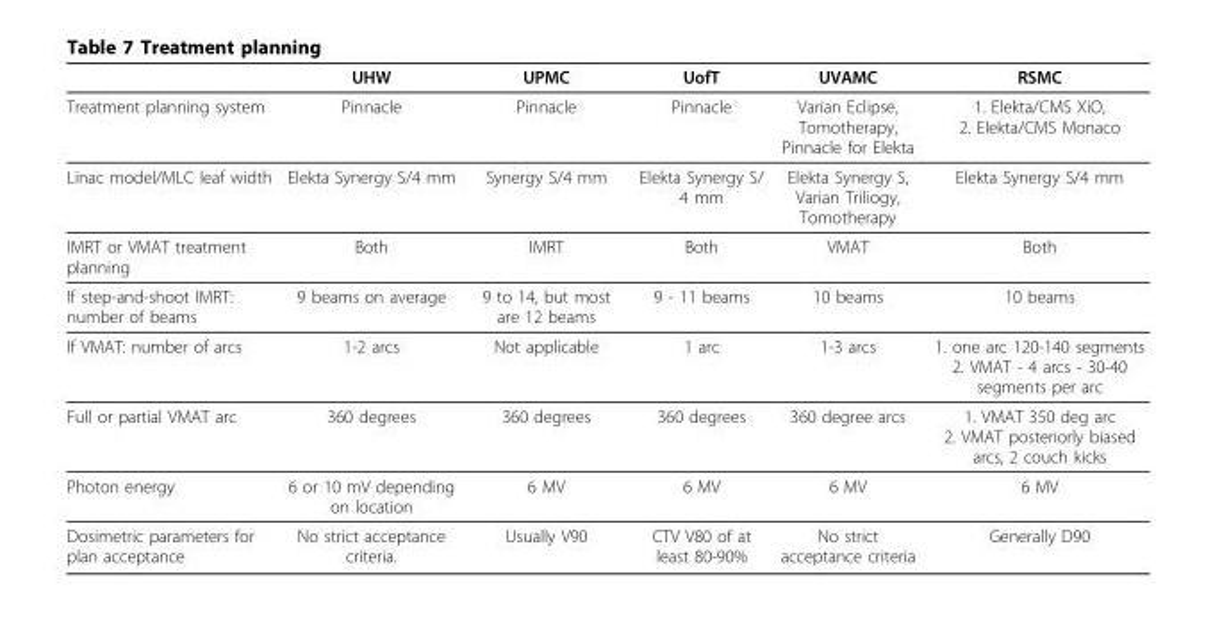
<table><thead><tr><td></td><td>UHW</td><td>UPMC</td><td>UofT</td><td>UVAMC</td><td>RSMC</td></tr></thead><tbody><tr><td>Treatment planning system</td><td>Pinnacle</td><td>Pinnacle</td><td>Pinnacle</td><td>Varian Eclipse, Tomotherapy, Pinnacle for Elekta</td><td>1. Elekta/CMS XiO, 2. Elekta/CMS Monaco</td></tr><tr><td>Linac model/MLC leaf width</td><td>Elekta Synergy S/4 mm</td><td>Synergy S/4 mm</td><td>Elekta Synergy S/ 4 mm</td><td>Elekta Synergy S, Varian Triliogy, Tomotherapy</td><td>Elekta Synergy S/4 mm</td></tr><tr><td>IMRT or VMAT treatment planning</td><td>Both</td><td>IMRT</td><td>Both</td><td>VMAT</td><td>Both</td></tr><tr><td>If step-and-shoot IMRT: number of beams</td><td>9 beams on average</td><td>9 to 14, but most are 12 beams</td><td>9 - 11 beams</td><td>10 beams</td><td>10 beams</td></tr><tr><td>If VMAT: number of arcs</td><td>1-2 arcs</td><td>Not applicable</td><td>1 arc</td><td>1-3 arcs</td><td>1. one arc 120-140 segments 2. VMAT - 4 arcs - 30-40 segments per arc</td></tr><tr><td>Full or partial VMAT arc</td><td>360 degrees</td><td>360 degrees</td><td>360 degrees</td><td>360 degree arcs</td><td>1. VMAT 350 deg arc 2. VMAT posteriorly biased arcs, 2 couch kicks</td></tr><tr><td>Photon energy</td><td>6 or 10 mV depending on location</td><td>6 MV</td><td>6 MV</td><td>6 MV</td><td>6 MV</td></tr><tr><td>Dosimetric parameters for plan acceptance</td><td>No strict acceptance criteria.</td><td>Usually V90</td><td>CTV V80 of at least 80-90%</td><td>No strict acceptance criteria</td><td>Generally D90</td></tr></tbody></table>